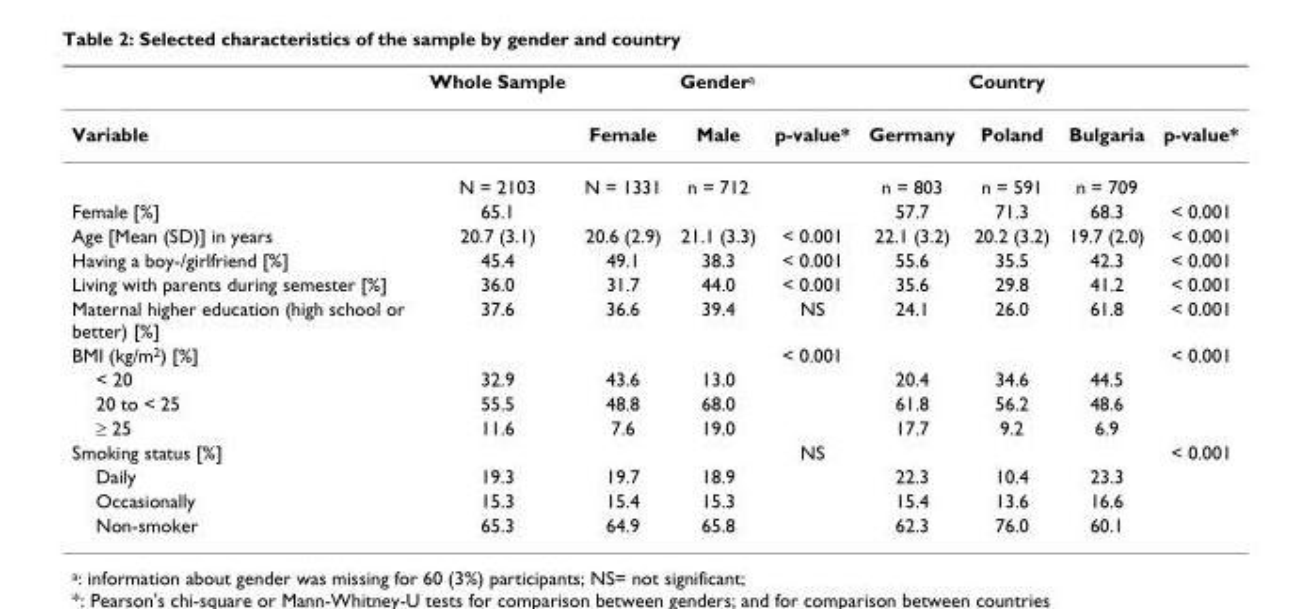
<table><thead><tr><td rowspan="2">Variable</td><td rowspan="2">Whole Sample</td><td colspan="3">Gender<sup>a</sup></td><td colspan="3">Country</td><td rowspan="2">p-value*</td></tr><tr><td>Female</td><td>Male</td><td>p-value*</td><td>Germany</td><td>Poland</td><td>Bulgaria</td></tr></thead><tbody><tr><td></td><td>N = 2103</td><td>N = 1331</td><td>n = 712</td><td></td><td>n = 803</td><td>n = 591</td><td>n = 709</td><td></td></tr><tr><td>Female [%]</td><td>65.1</td><td></td><td></td><td></td><td>57.7</td><td>71.3</td><td>68.3</td><td>&lt; 0.001</td></tr><tr><td>Age [Mean (SD)] in years</td><td>20.7 (3.1)</td><td>20.6 (2.9)</td><td>21.1 (3.3)</td><td>&lt; 0.001</td><td>22.1 (3.2)</td><td>20.2 (3.2)</td><td>19.7 (2.0)</td><td>&lt; 0.001</td></tr><tr><td>Having a boy-/girlfriend [%]</td><td>45.4</td><td>49.1</td><td>38.3</td><td>&lt; 0.001</td><td>55.6</td><td>35.5</td><td>42.3</td><td>&lt; 0.001</td></tr><tr><td>Living with parents during semester [%]</td><td>36.0</td><td>31.7</td><td>44.0</td><td>&lt; 0.001</td><td>35.6</td><td>29.8</td><td>41.2</td><td>&lt; 0.001</td></tr><tr><td>Maternal higher education (high school or better) [%]</td><td>37.6</td><td>36.6</td><td>39.4</td><td>NS</td><td>24.1</td><td>26.0</td><td>61.8</td><td>&lt; 0.001</td></tr><tr><td>BMI (kg/m<sup>2</sup>) [%]</td><td></td><td></td><td></td><td>&lt; 0.001</td><td></td><td></td><td></td><td>&lt; 0.001</td></tr><tr><td>&lt; 20</td><td>32.9</td><td>43.6</td><td>13.0</td><td></td><td>20.4</td><td>34.6</td><td>44.5</td><td></td></tr><tr><td>20 to &lt; 25</td><td>55.5</td><td>48.8</td><td>68.0</td><td></td><td>61.8</td><td>56.2</td><td>48.6</td><td></td></tr><tr><td>≥ 25</td><td>11.6</td><td>7.6</td><td>19.0</td><td></td><td>17.7</td><td>9.2</td><td>6.9</td><td></td></tr><tr><td>Smoking status [%]</td><td></td><td></td><td></td><td>NS</td><td></td><td></td><td></td><td>&lt; 0.001</td></tr><tr><td>Daily</td><td>19.3</td><td>19.7</td><td>18.9</td><td></td><td>22.3</td><td>10.4</td><td>23.3</td><td></td></tr><tr><td>Occasionally</td><td>15.3</td><td>15.4</td><td>15.3</td><td></td><td>15.4</td><td>13.6</td><td>16.6</td><td></td></tr><tr><td>Non-smoker</td><td>65.3</td><td>64.9</td><td>65.8</td><td></td><td>62.3</td><td>76.0</td><td>60.1</td><td></td></tr></tbody></table>